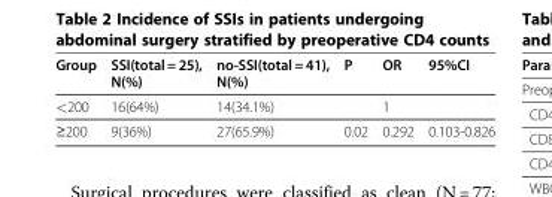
<table><thead><tr><td>Group</td><td>SSI(total = 25), N(%)</td><td>no-SSI(total = 41), N(%)</td><td>P</td><td>OR</td><td>95%CI</td></tr></thead><tbody><tr><td>&lt;200</td><td>16(64%)</td><td>14(34.1%)</td><td></td><td>1</td><td></td></tr><tr><td>≥200</td><td>9(36%)</td><td>27(65.9%)</td><td>0.02</td><td>0.292</td><td>0.103-0.826</td></tr></tbody></table>